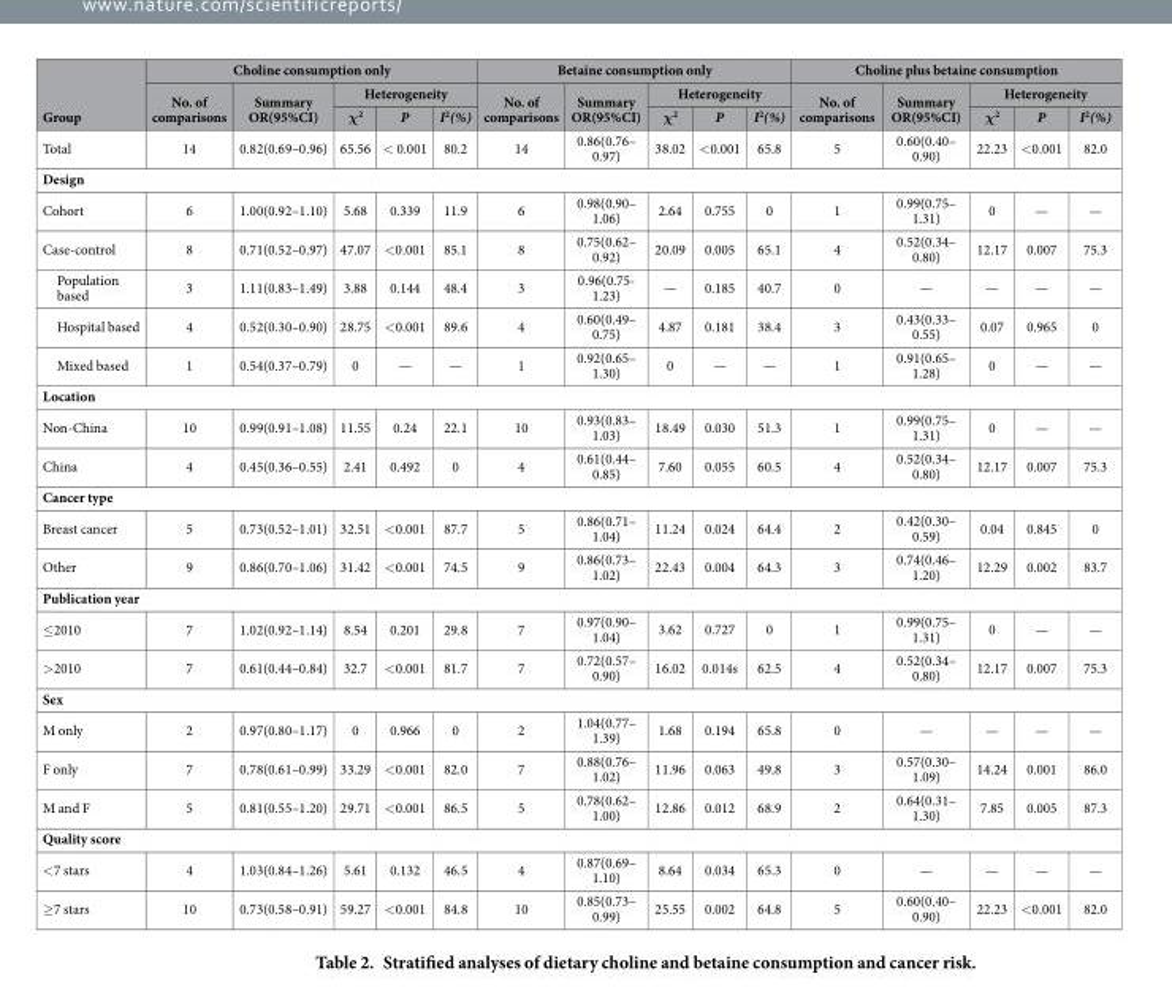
<table><thead><tr><td rowspan="3">Group</td><td colspan="5">Choline consumption only</td><td colspan="5">Betaine consumption only</td><td colspan="5">Choline plus betaine consumption</td></tr><tr><td rowspan="2">No. of comparisons</td><td rowspan="2">Summary OR(95%CI)</td><td colspan="3">Heterogeneity</td><td rowspan="2">No. of comparisons</td><td rowspan="2">Summary OR(95%CI)</td><td colspan="3">Heterogeneity</td><td rowspan="2">No. of comparisons</td><td rowspan="2">Summary OR(95%CI)</td><td colspan="3">Heterogeneity</td></tr><tr><td>χ<sup>2</sup></td><td>P</td><td>I<sup>2</sup>(%)</td><td>χ<sup>2</sup></td><td>P</td><td>I<sup>2</sup>(%)</td><td>χ<sup>2</sup></td><td>P</td><td>I<sup>2</sup>(%)</td></tr></thead><tbody><tr><td>Total</td><td>14</td><td>0.82(0.69–0.96)</td><td>65.56</td><td>&lt; 0.001</td><td>80.2</td><td>14</td><td>0.86(0.76– 0.97)</td><td>38.02</td><td>&lt; 0.001</td><td>65.8</td><td>5</td><td>0.60(0.40– 0.90)</td><td>22.23</td><td>&lt; 0.001</td><td>82.0</td></tr><tr><td colspan="16">Design</td></tr><tr><td>Cohort</td><td>6</td><td>1.00(0.92–1.10)</td><td>5.68</td><td>0.339</td><td>11.9</td><td>6</td><td>0.98(0.90– 1.06)</td><td>2.64</td><td>0.755</td><td>0</td><td>1</td><td>0.99(0.75– 1.31)</td><td>0</td><td>—</td><td>—</td></tr><tr><td>Case-control</td><td>8</td><td>0.71(0.52–0.97)</td><td>47.07</td><td>&lt; 0.001</td><td>85.1</td><td>8</td><td>0.75(0.62– 0.92)</td><td>20.09</td><td>0.005</td><td>65.1</td><td>4</td><td>0.52(0.34– 0.80)</td><td>12.17</td><td>0.007</td><td>75.3</td></tr><tr><td>Population based</td><td>3</td><td>1.11(0.83–1.49)</td><td>3.88</td><td>0.144</td><td>48.4</td><td>3</td><td>0.96(0.75- 1.23)</td><td>—</td><td>0.185</td><td>40.7</td><td>0</td><td>—</td><td>—</td><td>—</td><td>—</td></tr><tr><td>Hospital based</td><td>4</td><td>0.52(0.30–0.90)</td><td>28.75</td><td>&lt; 0.001</td><td>89.6</td><td>4</td><td>0.60(0.49– 0.75)</td><td>4.87</td><td>0.181</td><td>38.4</td><td>3</td><td>0.43(0.33– 0.55)</td><td>0.07</td><td>0.965</td><td>0</td></tr><tr><td>Mixed based</td><td>1</td><td>0.54(0.37–0.79)</td><td>0</td><td>—</td><td>—</td><td>1</td><td>0.92(0.65– 1.30)</td><td>0</td><td>—</td><td>—</td><td>1</td><td>0.91(0.65– 1.28)</td><td>0</td><td>—</td><td>—</td></tr><tr><td colspan="16">Location</td></tr><tr><td>Non-China</td><td>10</td><td>0.99(0.91–1.08)</td><td>11.55</td><td>0.24</td><td>22.1</td><td>10</td><td>0.93(0.83– 1.03)</td><td>18.49</td><td>0.030</td><td>51.3</td><td>1</td><td>0.99(0.75– 1.31)</td><td>0</td><td>—</td><td>—</td></tr><tr><td>China</td><td>4</td><td>0.45(0.36–0.55)</td><td>2.41</td><td>0.492</td><td>0</td><td>4</td><td>0.61(0.44– 0.85)</td><td>7.60</td><td>0.055</td><td>60.5</td><td>4</td><td>0.52(0.34– 0.80)</td><td>12.17</td><td>0.007</td><td>75.3</td></tr><tr><td colspan="16">Cancer type</td></tr><tr><td>Breast cancer</td><td>5</td><td>0.73(0.52–1.01)</td><td>32.51</td><td>&lt; 0.001</td><td>87.7</td><td>5</td><td>0.86(0.71– 1.04)</td><td>11.24</td><td>0.024</td><td>64.4</td><td>2</td><td>0.42(0.30– 0.59)</td><td>0.04</td><td>0.845</td><td>0</td></tr><tr><td>Other</td><td>9</td><td>0.86(0.70–1.06)</td><td>31.42</td><td>&lt; 0.001</td><td>74.5</td><td>9</td><td>0.86(0.73– 1.02)</td><td>22.43</td><td>0.004</td><td>64.3</td><td>3</td><td>0.74(0.46– 1.20)</td><td>12.29</td><td>0.002</td><td>83.7</td></tr><tr><td colspan="16">Publication year</td></tr><tr><td>≤ 2010</td><td>7</td><td>1.02(0.92–1.14)</td><td>8.54</td><td>0.201</td><td>29.8</td><td>7</td><td>0.97(0.90– 1.04)</td><td>3.62</td><td>0.727</td><td>0</td><td>1</td><td>0.99(0.75– 1.31)</td><td>0</td><td>—</td><td>—</td></tr><tr><td>&gt; 2010</td><td>7</td><td>0.61(0.44–0.84)</td><td>32.7</td><td>&lt; 0.001</td><td>81.7</td><td>7</td><td>0.72(0.57– 0.90)</td><td>16.02</td><td>0.014s</td><td>62.5</td><td>4</td><td>0.52(0.34– 0.80)</td><td>12.17</td><td>0.007</td><td>75.3</td></tr><tr><td colspan="16">Sex</td></tr><tr><td>M only</td><td>2</td><td>0.97(0.80–1.17)</td><td>0</td><td>0.966</td><td>0</td><td>2</td><td>1.04(0.77– 1.39)</td><td>1.68</td><td>0.194</td><td>65.8</td><td>0</td><td>—</td><td>—</td><td>—</td><td>—</td></tr><tr><td>F only</td><td>7</td><td>0.78(0.61–0.99)</td><td>33.29</td><td>&lt; 0.001</td><td>82.0</td><td>7</td><td>0.88(0.76– 1.02)</td><td>11.96</td><td>0.063</td><td>49.8</td><td>3</td><td>0.57(0.30– 1.09)</td><td>14.24</td><td>0.001</td><td>86.0</td></tr><tr><td>M and F</td><td>5</td><td>0.81(0.55–1.20)</td><td>29.71</td><td>&lt; 0.001</td><td>86.5</td><td>5</td><td>0.78(0.62– 1.00)</td><td>12.86</td><td>0.012</td><td>68.9</td><td>2</td><td>0.64(0.31– 1.30)</td><td>7.85</td><td>0.005</td><td>87.3</td></tr><tr><td colspan="16">Quality score</td></tr><tr><td>&lt; 7 stars</td><td>4</td><td>1.03(0.84–1.26)</td><td>5.61</td><td>0.132</td><td>46.5</td><td>4</td><td>0.87(0.69– 1.10)</td><td>8.64</td><td>0.034</td><td>65.3</td><td>0</td><td>—</td><td>—</td><td>—</td><td>—</td></tr><tr><td>≥ 7 stars</td><td>10</td><td>0.73(0.58–0.91)</td><td>59.27</td><td>&lt; 0.001</td><td>84.8</td><td>10</td><td>0.85(0.73– 0.99)</td><td>25.55</td><td>0.002</td><td>64.8</td><td>5</td><td>0.60(0.40– 0.90)</td><td>22.23</td><td>&lt; 0.001</td><td>82.0</td></tr></tbody></table>